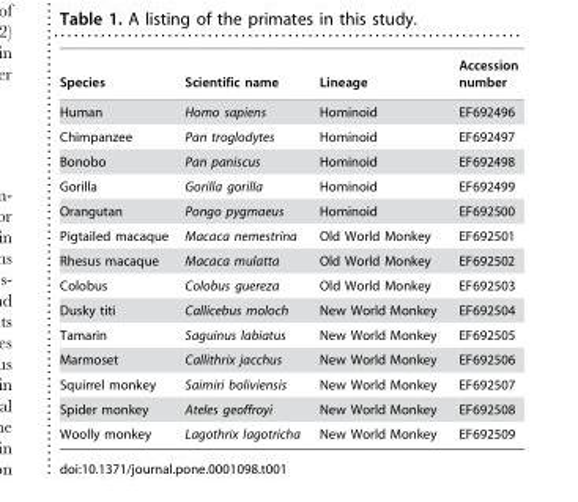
<table><thead><tr><td>Species</td><td>Scientific name</td><td>Lineage</td><td>Accession number</td></tr></thead><tbody><tr><td>Human</td><td>Homo sapiens</td><td>Hominoid</td><td>EF692496</td></tr><tr><td>Chimpanzee</td><td>Pan troglodytes</td><td>Hominoid</td><td>EF692497</td></tr><tr><td>Bonobo</td><td>Pan paniscus</td><td>Hominoid</td><td>EF692498</td></tr><tr><td>Gorilla</td><td>Gorilla gorilla</td><td>Hominoid</td><td>EF692499</td></tr><tr><td>Orangutan</td><td>Pongo pygmaeus</td><td>Hominoid</td><td>EF692500</td></tr><tr><td>Pigtailed macaque</td><td>Macaca nemestrina</td><td>Old World Monkey</td><td>EF692501</td></tr><tr><td>Rhesus macaque</td><td>Macaca mulatta</td><td>Old World Monkey</td><td>EF692502</td></tr><tr><td>Colobus</td><td>Colobus guereza</td><td>Old World Monkey</td><td>EF692503</td></tr><tr><td>Dusky titi</td><td>Callicebus moloch</td><td>New World Monkey</td><td>EF692504</td></tr><tr><td>Tamarin</td><td>Saguinus labiatus</td><td>New World Monkey</td><td>EF692505</td></tr><tr><td>Marmoset</td><td>Callithrix jacchus</td><td>New World Monkey</td><td>EF692506</td></tr><tr><td>Squirrel monkey</td><td>Saimiri boliviensis</td><td>New World Monkey</td><td>EF692507</td></tr><tr><td>Spider monkey</td><td>Ateles geoffroyi</td><td>New World Monkey</td><td>EF692508</td></tr><tr><td>Woolly monkey</td><td>Lagothrix lagotricha</td><td>New World Monkey</td><td>EF692509</td></tr></tbody></table>